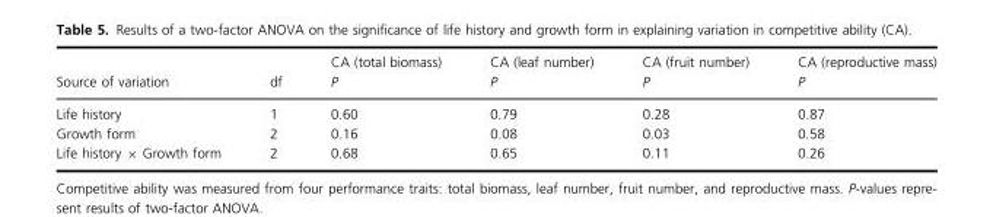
<table><thead><tr><td rowspan="2">Source of variation</td><td rowspan="2">df</td><td rowspan="2">CA (total biomass) P</td><td rowspan="2">CA (leaf number) P</td><td rowspan="2">CA (fruit number) P</td><td rowspan="2">CA (reproductive mass) P</td></tr><tr></tr></thead><tbody><tr><td>Life history</td><td>1</td><td>0.60</td><td>0.79</td><td>0.28</td><td>0.87</td></tr><tr><td>Growth form</td><td>2</td><td>0.16</td><td>0.08</td><td>0.03</td><td>0.58</td></tr><tr><td>Life history × Growth form</td><td>2</td><td>0.68</td><td>0.65</td><td>0.11</td><td>0.26</td></tr></tbody></table>